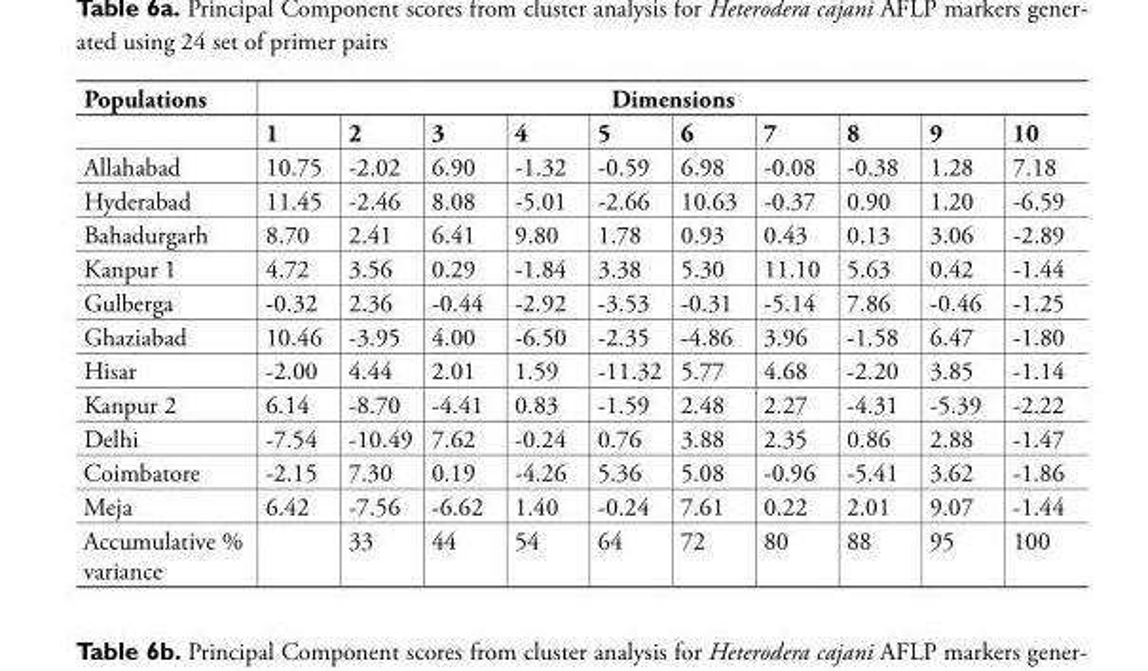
<table><thead><tr><td rowspan="2">Populations</td><td colspan="10">Dimensions</td></tr><tr><td>1</td><td>2</td><td>3</td><td>4</td><td>5</td><td>6</td><td>7</td><td>8</td><td>9</td><td>10</td></tr></thead><tbody><tr><td>Allahabad</td><td>10.75</td><td>-2.02</td><td>6.90</td><td>-1.32</td><td>-0.59</td><td>6.98</td><td>-0.08</td><td>-0.38</td><td>1.28</td><td>7.18</td></tr><tr><td>Hyderabad</td><td>11.45</td><td>-2.46</td><td>8.08</td><td>-5.01</td><td>-2.66</td><td>10.63</td><td>-0.37</td><td>0.90</td><td>1.20</td><td>-6.59</td></tr><tr><td>Bahadurgarh</td><td>8.70</td><td>2.41</td><td>6.41</td><td>9.80</td><td>1.78</td><td>0.93</td><td>0.43</td><td>0.13</td><td>3.06</td><td>-2.89</td></tr><tr><td>Kanpur 1</td><td>4.72</td><td>3.56</td><td>0.29</td><td>-1.84</td><td>3.38</td><td>5.30</td><td>11.10</td><td>5.63</td><td>0.42</td><td>-1.44</td></tr><tr><td>Gulberga</td><td>-0.32</td><td>2.36</td><td>-0.44</td><td>-2.92</td><td>-3.53</td><td>-0.31</td><td>-5.14</td><td>7.86</td><td>-0.46</td><td>-1.25</td></tr><tr><td>Ghaziabad</td><td>10.46</td><td>-3.95</td><td>4.00</td><td>-6.50</td><td>-2.35</td><td>-4.86</td><td>3.96</td><td>-1.58</td><td>6.47</td><td>-1.80</td></tr><tr><td>Hisar</td><td>-2.00</td><td>4.44</td><td>2.01</td><td>1.59</td><td>-11.32</td><td>5.77</td><td>4.68</td><td>-2.20</td><td>3.85</td><td>-1.14</td></tr><tr><td>Kanpur 2</td><td>6.14</td><td>-8.70</td><td>-4.41</td><td>0.83</td><td>-1.59</td><td>2.48</td><td>2.27</td><td>-4.31</td><td>-5.39</td><td>-2.22</td></tr><tr><td>Delhi</td><td>-7.54</td><td>-10.49</td><td>7.62</td><td>-0.24</td><td>0.76</td><td>3.88</td><td>2.35</td><td>0.86</td><td>2.88</td><td>-1.47</td></tr><tr><td>Coimbatore</td><td>-2.15</td><td>7.30</td><td>0.19</td><td>-4.26</td><td>5.36</td><td>5.08</td><td>-0.96</td><td>-5.41</td><td>3.62</td><td>-1.86</td></tr><tr><td>Meja</td><td>6.42</td><td>-7.56</td><td>-6.62</td><td>1.40</td><td>-0.24</td><td>7.61</td><td>0.22</td><td>2.01</td><td>9.07</td><td>-1.44</td></tr><tr><td>Accumulative % variance</td><td></td><td>33</td><td>44</td><td>54</td><td>64</td><td>72</td><td>80</td><td>88</td><td>95</td><td>100</td></tr></tbody></table>